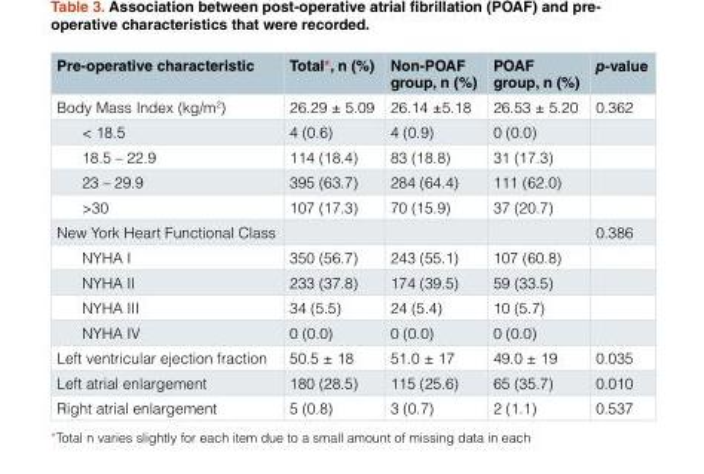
<table><thead><tr><td>Pre-operative characteristic</td><td>Total*, n (%)</td><td>Non-POAF group, n (%)</td><td>POAF group, n (%)</td><td>p-value</td></tr></thead><tbody><tr><td>Body Mass Index (kg/m<sup>2</sup>)</td><td>26.29 ± 5.09</td><td>26.14 ±5.18</td><td>26.53 ± 5.20</td><td>0.362</td></tr><tr><td>&lt; 18.5</td><td>4 (0.6)</td><td>4 (0.9)</td><td>0 (0.0)</td><td></td></tr><tr><td>18.5 – 22.9</td><td>114 (18.4)</td><td>83 (18.8)</td><td>31 (17.3)</td><td></td></tr><tr><td>23 – 29.9</td><td>395 (63.7)</td><td>284 (64.4)</td><td>111 (62.0)</td><td></td></tr><tr><td>&gt;30</td><td>107 (17.3)</td><td>70 (15.9)</td><td>37 (20.7)</td><td></td></tr><tr><td>New York Heart Functional Class</td><td></td><td></td><td></td><td>0.386</td></tr><tr><td>NYHA I</td><td>350 (56.7)</td><td>243 (55.1)</td><td>107 (60.8)</td><td></td></tr><tr><td>NYHA II</td><td>233 (37.8)</td><td>174 (39.5)</td><td>59 (33.5)</td><td></td></tr><tr><td>NYHA III</td><td>34 (5.5)</td><td>24 (5.4)</td><td>10 (5.7)</td><td></td></tr><tr><td>NYHA IV</td><td>0 (0.0)</td><td>0 (0.0)</td><td>0 (0.0)</td><td></td></tr><tr><td>Left ventricular ejection fraction</td><td>50.5 ± 18</td><td>51.0 ± 17</td><td>49.0 ± 19</td><td>0.035</td></tr><tr><td>Left atrial enlargement</td><td>180 (28.5)</td><td>115 (25.6)</td><td>65 (35.7)</td><td>0.010</td></tr><tr><td>Right atrial enlargement</td><td>5 (0.8)</td><td>3 (0.7)</td><td>2 (1.1)</td><td>0.537</td></tr></tbody></table>